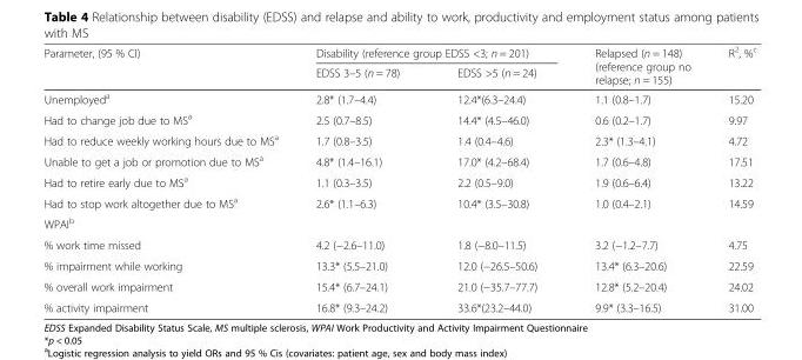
<table><thead><tr><td rowspan="2">Parameter, (95 % CI)</td><td colspan="2">Disability (reference group EDSS &lt;3; n = 201)</td><td rowspan="2">Relapsed (n = 148) (reference group no relapse; n = 155)</td><td rowspan="2">R<sup>2</sup>, %<sup>c</sup></td></tr><tr><td>EDSS 3–5 (n = 78)</td><td>EDSS &gt;5 (n = 24)</td></tr></thead><tbody><tr><td>Unemployed<sup>a</sup></td><td>2.8* (1.7–4.4)</td><td>12.4*(6.3–24.4)</td><td>1.1 (0.8–1.7)</td><td>15.20</td></tr><tr><td>Had to change job due to MS<sup>a</sup></td><td>2.5 (0.7–8.5)</td><td>14.4* (4.5–46.0)</td><td>0.6 (0.2–1.7)</td><td>9.97</td></tr><tr><td>Had to reduce weekly working hours due to MS<sup>a</sup></td><td>1.7 (0.8–3.5)</td><td>1.4 (0.4–4.6)</td><td>2.3* (1.3–4.1)</td><td>4.72</td></tr><tr><td>Unable to get a job or promotion due to MS<sup>a</sup></td><td>4.8* (1.4–16.1)</td><td>17.0* (4.2–68.4)</td><td>1.7 (0.6–4.8)</td><td>17.51</td></tr><tr><td>Had to retire early due to MS<sup>a</sup></td><td>1.1 (0.3–3.5)</td><td>2.2 (0.5–9.0)</td><td>1.9 (0.6–6.4)</td><td>13.22</td></tr><tr><td>Had to stop work altogether due to MS<sup>a</sup></td><td>2.6* (1.1–6.3)</td><td>10.4* (3.5–30.8)</td><td>1.0 (0.4–2.1)</td><td>14.59</td></tr><tr><td colspan="5">WPAI<sup>b</sup></td></tr><tr><td>% work time missed</td><td>4.2 (−2.6–11.0)</td><td>1.8 (−8.0–11.5)</td><td>3.2 (−1.2–7.7)</td><td>4.75</td></tr><tr><td>% impairment while working</td><td>13.3* (5.5–21.0)</td><td>12.0 (−26.5–50.6)</td><td>13.4* (6.3–20.6)</td><td>22.59</td></tr><tr><td>% overall work impairment</td><td>15.4* (6.7–24.1)</td><td>21.0 (−35.7–77.7)</td><td>12.8* (5.2–20.4)</td><td>24.02</td></tr><tr><td>% activity impairment</td><td>16.8* (9.3–24.2)</td><td>33.6*(23.2–44.0)</td><td>9.9* (3.3–16.5)</td><td>31.00</td></tr></tbody></table>